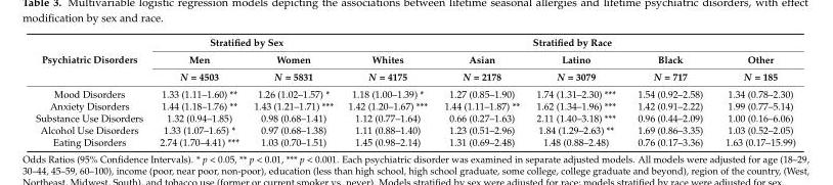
<table><thead><tr><td rowspan="3">Psychiatric Disorders</td><td colspan="2">Stratified by Sex</td><td colspan="5">Stratified by Race</td></tr><tr><td rowspan="2">Men N = 4503</td><td rowspan="2">Women N = 5831</td><td rowspan="2">Whites N = 4175</td><td rowspan="2">Asian N = 2178</td><td rowspan="2">Latino N = 3079</td><td rowspan="2">Black N = 717</td><td rowspan="2">Other N = 185</td></tr><tr></tr></thead><tbody><tr><td>Mood Disorders</td><td>1.33 (1.11–1.60) **</td><td>1.26 (1.02–1.57) *</td><td>1.18 (1.00–1.39) *</td><td>1.27 (0.85–1.90)</td><td>1.74 (1.31–2.30) ***</td><td>1.54 (0.92–2.58)</td><td>1.34 (0.78–2.30)</td></tr><tr><td>Anxiety Disorders</td><td>1.44 (1.18–1.76) **</td><td>1.43 (1.21–1.71) ***</td><td>1.42 (1.20–1.67) ***</td><td>1.44 (1.11–1.87) **</td><td>1.62 (1.34–1.96) ***</td><td>1.42 (0.91–2.22)</td><td>1.99 (0.77–5.14)</td></tr><tr><td>Substance Use Disorders</td><td>1.32 (0.94–1.85)</td><td>0.98 (0.68–1.41)</td><td>1.12 (0.77–1.64)</td><td>0.66 (0.27–1.63)</td><td>2.11 (1.40–3.18) ***</td><td>0.96 (0.44–2.09)</td><td>1.00 (0.16–6.06)</td></tr><tr><td>Alcohol Use Disorders</td><td>1.33 (1.07–1.65) *</td><td>0.97 (0.68–1.38)</td><td>1.11 (0.88–1.40)</td><td>1.23 (0.51–2.96)</td><td>1.84 (1.29–2.63) **</td><td>1.69 (0.86–3.35)</td><td>1.03 (0.52–2.05)</td></tr><tr><td>Eating Disorders</td><td>2.74 (1.70–4.41) ***</td><td>1.03 (0.70–1.51)</td><td>1.45 (0.98–2.14)</td><td>1.31 (0.69–2.48)</td><td>1.48 (0.88–2.48)</td><td>0.76 (0.17–3.36)</td><td>1.63 (0.17–15.99)</td></tr></tbody></table>